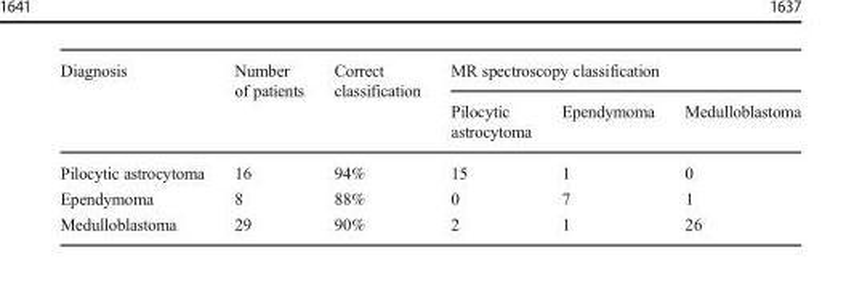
<table><thead><tr><td rowspan="2">Diagnosis</td><td rowspan="2">Number of patients</td><td rowspan="2">Correct classification</td><td colspan="3">MR spectroscopy classification</td></tr><tr><td>Pilocytic astrocytoma</td><td>Ependymoma</td><td>Medulloblastoma</td></tr></thead><tbody><tr><td>Pilocytic astrocytoma</td><td>16</td><td>94%</td><td>15</td><td>1</td><td>0</td></tr><tr><td>Ependymoma</td><td>8</td><td>88%</td><td>0</td><td>7</td><td>1</td></tr><tr><td>Medulloblastoma</td><td>29</td><td>90%</td><td>2</td><td>1</td><td>26</td></tr></tbody></table>